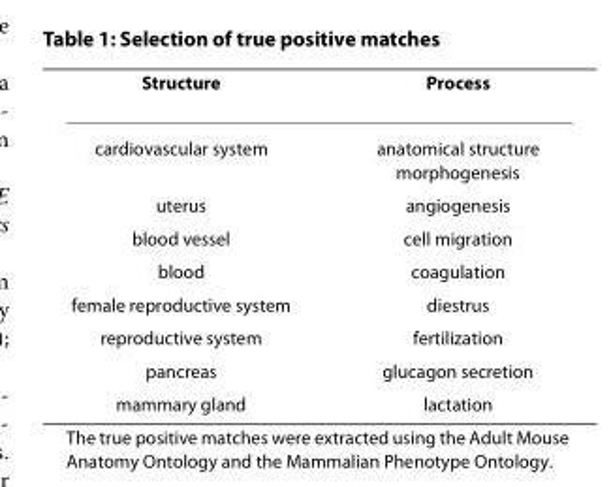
<table><thead><tr><td>Structure</td><td>Process</td></tr></thead><tbody><tr><td>cardiovascular system</td><td>anatomical structure morphogenesis</td></tr><tr><td>uterus</td><td>angiogenesis</td></tr><tr><td>blood vessel</td><td>cell migration</td></tr><tr><td>blood</td><td>coagulation</td></tr><tr><td>female reproductive system</td><td>diestrus</td></tr><tr><td>reproductive system</td><td>fertilization</td></tr><tr><td>pancreas</td><td>glucagon secretion</td></tr><tr><td>mammary gland</td><td>lactation</td></tr></tbody></table>